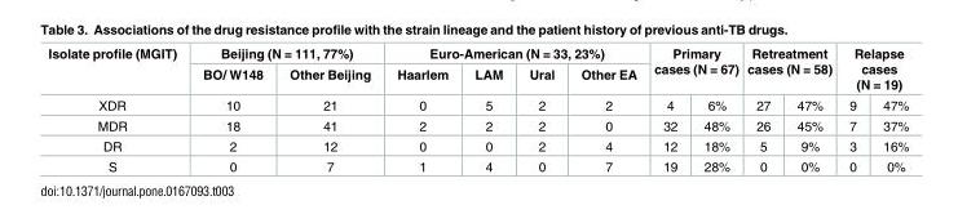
<table><thead><tr><td rowspan="3">Isolate profile (MGIT) XDR</td><td colspan="2">Beijing (N = 111, 77%)</td><td colspan="4">Euro-American (N = 33, 23%)</td><td rowspan="2" colspan="2">Primary cases (N = 67)</td><td rowspan="2" colspan="2">Retreatment cases (N = 58)</td><td rowspan="2" colspan="2">Relapse cases (N = 19)</td></tr><tr><td rowspan="2">BO/ W148 10</td><td rowspan="2">Other Beijing 21</td><td rowspan="2">Haarlem 0</td><td rowspan="2">LAM 5</td><td rowspan="2">Ural 2</td><td rowspan="2">Other EA 2</td></tr><tr><td>4</td><td>6%</td><td>27</td><td>47%</td><td>9</td><td>47%</td></tr></thead><tbody><tr><td>MDR</td><td>18</td><td>41</td><td>2</td><td>2</td><td>2</td><td>0</td><td>32</td><td>48%</td><td>26</td><td>45%</td><td>7</td><td>37%</td></tr><tr><td>DR</td><td>2</td><td>12</td><td>0</td><td>0</td><td>2</td><td>4</td><td>12</td><td>18%</td><td>5</td><td>9%</td><td>3</td><td>16%</td></tr><tr><td>S</td><td>0</td><td>7</td><td>1</td><td>4</td><td>0</td><td>7</td><td>19</td><td>28%</td><td>0</td><td>0%</td><td>0</td><td>0%</td></tr></tbody></table>